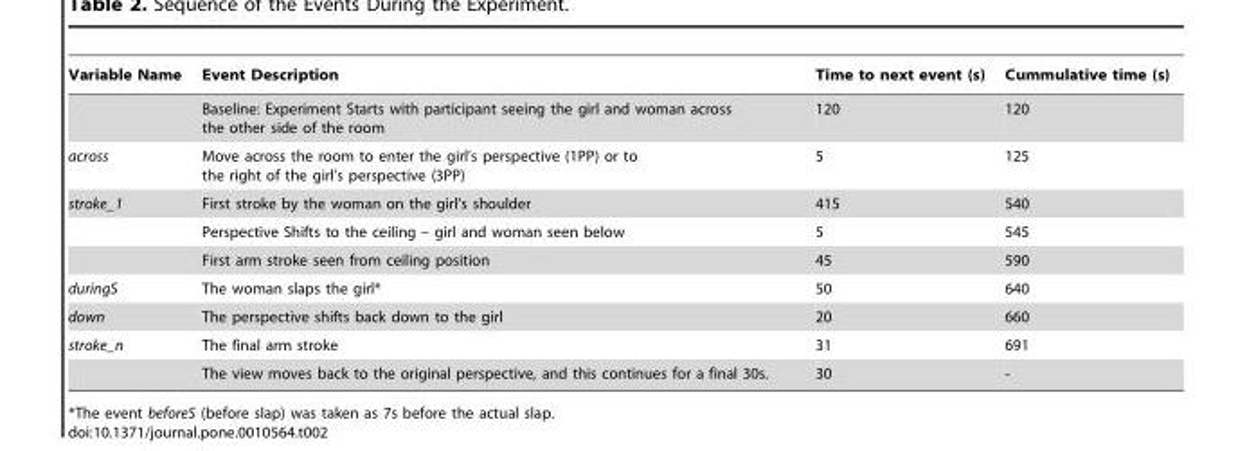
<table><thead><tr><td>Variable Name</td><td>Event Description</td><td>Time to next event (s)</td><td>Cummulative time (s)</td></tr></thead><tbody><tr><td></td><td>Baseline: Experiment Starts with participant seeing the girl and woman across the other side of the room</td><td>120</td><td>120</td></tr><tr><td>across</td><td>Move across the room to enter the girl’s perspective (1PP) or to the right of the girl’s perspective (3PP)</td><td>5</td><td>125</td></tr><tr><td rowspan="3">stroke_1</td><td>First stroke by the woman on the girl’s shoulder</td><td>415</td><td>540</td></tr><tr><td>Perspective Shifts to the ceiling – girl and woman seen below</td><td>5</td><td>545</td></tr><tr><td>First arm stroke seen from ceiling position</td><td>45</td><td>590</td></tr><tr><td>duringS</td><td>The woman slaps the girl*</td><td>50</td><td>640</td></tr><tr><td>down</td><td>The perspective shifts back down to the girl</td><td>20</td><td>660</td></tr><tr><td rowspan="2">stroke_n</td><td>The final arm stroke</td><td>31</td><td>691</td></tr><tr><td>The view moves back to the original perspective, and this continues for a final 30s.</td><td>30</td><td>-</td></tr></tbody></table>